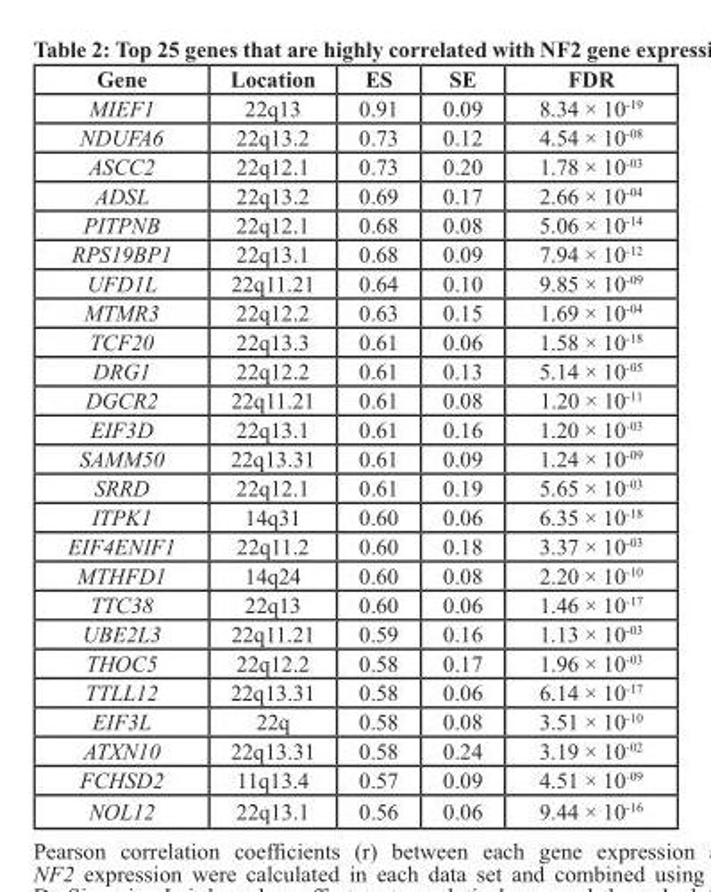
<table><thead><tr><td>Gene</td><td>Location</td><td>ES</td><td>SE</td><td>FDR</td></tr></thead><tbody><tr><td>MIEF1</td><td>22q13</td><td>0.91</td><td>0.09</td><td>8.34 × 10<sup>-19</sup></td></tr><tr><td>NDUFA6</td><td>22q13.2</td><td>0.73</td><td>0.12</td><td>4.54 × 10<sup>-08</sup></td></tr><tr><td>ASCC2</td><td>22q12.1</td><td>0.73</td><td>0.20</td><td>1.78 × 10<sup>-03</sup></td></tr><tr><td>ADSL</td><td>22q13.2</td><td>0.69</td><td>0.17</td><td>2.66 × 10<sup>-04</sup></td></tr><tr><td>PITPNB</td><td>22q12.1</td><td>0.68</td><td>0.08</td><td>5.06 × 10<sup>-14</sup></td></tr><tr><td>RPS19BP1</td><td>22q13.1</td><td>0.68</td><td>0.09</td><td>7.94 × 10<sup>-12</sup></td></tr><tr><td>UFD1L</td><td>22q11.21</td><td>0.64</td><td>0.10</td><td>9.85 × 10<sup>-09</sup></td></tr><tr><td>MTMR3</td><td>22q12.2</td><td>0.63</td><td>0.15</td><td>1.69 × 10<sup>-04</sup></td></tr><tr><td>TCF20</td><td>22q13.3</td><td>0.61</td><td>0.06</td><td>1.58 × 10<sup>-18</sup></td></tr><tr><td>DRG1</td><td>22q12.2</td><td>0.61</td><td>0.13</td><td>5.14 × 10<sup>-05</sup></td></tr><tr><td>DGCR2</td><td>22q11.21</td><td>0.61</td><td>0.08</td><td>1.20 × 10<sup>-11</sup></td></tr><tr><td>EIF3D</td><td>22q13.1</td><td>0.61</td><td>0.16</td><td>1.20 × 10<sup>-03</sup></td></tr><tr><td>SAMM50</td><td>22q13.31</td><td>0.61</td><td>0.09</td><td>1.24 × 10<sup>-09</sup></td></tr><tr><td>SRRD</td><td>22q12.1</td><td>0.61</td><td>0.19</td><td>5.65 × 10<sup>-03</sup></td></tr><tr><td>ITPK1</td><td>14q31</td><td>0.60</td><td>0.06</td><td>6.35 × 10<sup>-18</sup></td></tr><tr><td>EIF4ENIF1</td><td>22q11.2</td><td>0.60</td><td>0.18</td><td>3.37 × 10<sup>-03</sup></td></tr><tr><td>MTHFD1</td><td>14q24</td><td>0.60</td><td>0.08</td><td>2.20 × 10<sup>-10</sup></td></tr><tr><td>TTC38</td><td>22q13</td><td>0.60</td><td>0.06</td><td>1.46 × 10<sup>-17</sup></td></tr><tr><td>UBE2L3</td><td>22q11.21</td><td>0.59</td><td>0.16</td><td>1.13 × 10<sup>-03</sup></td></tr><tr><td>THOC5</td><td>22q12.2</td><td>0.58</td><td>0.17</td><td>1.96 × 10<sup>-03</sup></td></tr><tr><td>TTLL12</td><td>22q13.31</td><td>0.58</td><td>0.06</td><td>6.14 × 10<sup>-17</sup></td></tr><tr><td>EIF3L</td><td>22q</td><td>0.58</td><td>0.08</td><td>3.51 × 10<sup>-10</sup></td></tr><tr><td>ATXN10</td><td>22q13.31</td><td>0.58</td><td>0.24</td><td>3.19 × 10<sup>-02</sup></td></tr><tr><td>FCHSD2</td><td>11q13.4</td><td>0.57</td><td>0.09</td><td>4.51 × 10<sup>-09</sup></td></tr><tr><td>NOL12</td><td>22q13.1</td><td>0.56</td><td>0.06</td><td>9.44 × 10<sup>-16</sup></td></tr></tbody></table>